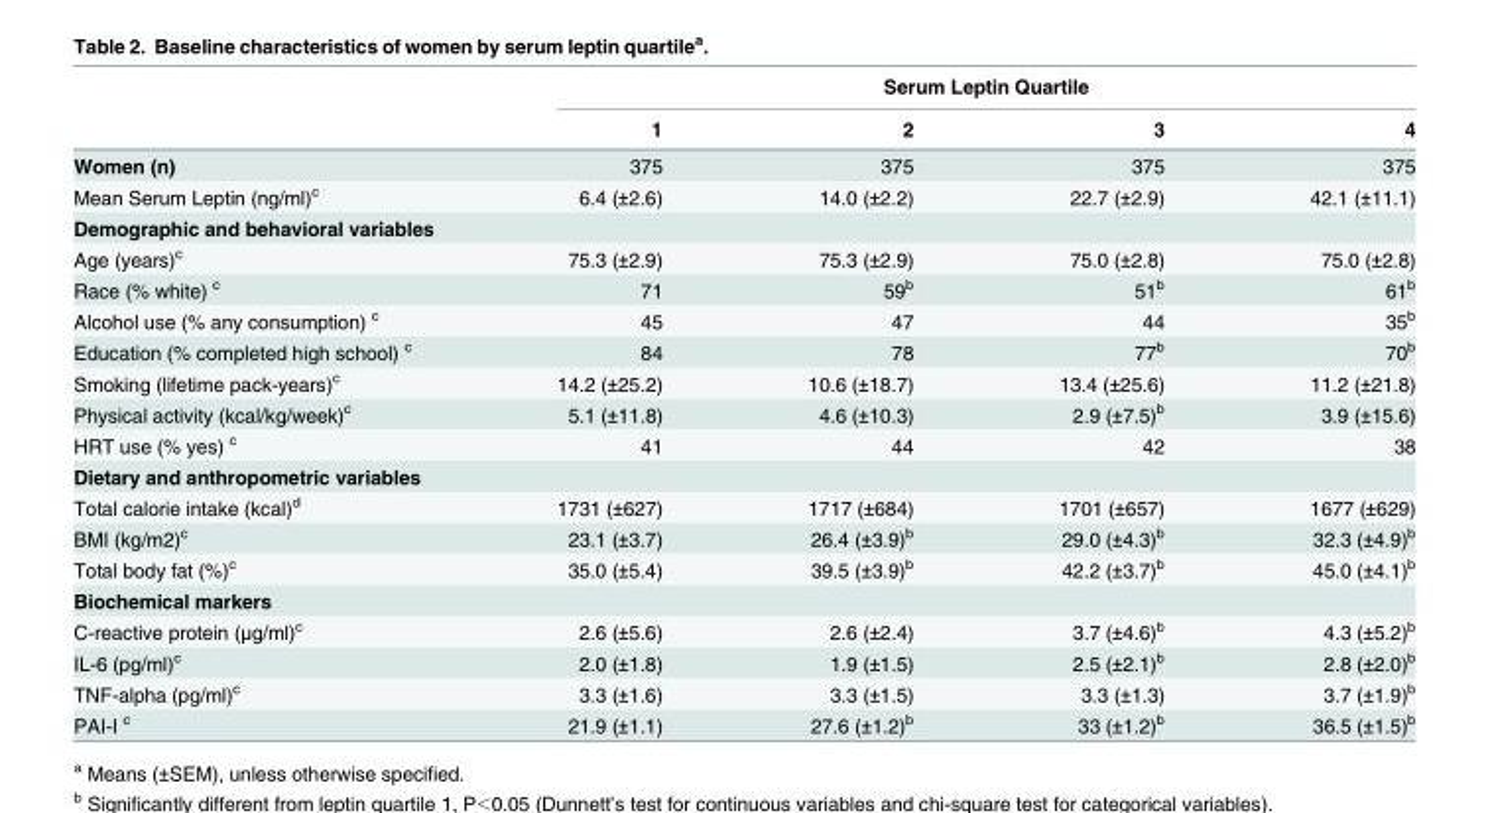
<table><thead><tr><td rowspan="2"></td><td colspan="4">Serum Leptin Quartile</td></tr><tr><td>1</td><td>2</td><td>3</td><td>4</td></tr></thead><tbody><tr><td>Women (n)</td><td>375</td><td>375</td><td>375</td><td>375</td></tr><tr><td>Mean Serum Leptin (ng/ml)<sup>c</sup></td><td>6.4 (±2.6)</td><td>14.0 (±2.2)</td><td>22.7 (±2.9)</td><td>42.1 (±11.1)</td></tr><tr><td colspan="5">Demographic and behavioral variables</td></tr><tr><td>Age (years)<sup>c</sup></td><td>75.3 (±2.9)</td><td>75.3 (±2.9)</td><td>75.0 (±2.8)</td><td>75.0 (±2.8)</td></tr><tr><td>Race (% white) <sup>c</sup></td><td>71</td><td>59<sup>b</sup></td><td>51<sup>b</sup></td><td>61<sup>b</sup></td></tr><tr><td>Alcohol use (% any consumption) <sup>c</sup></td><td>45</td><td>47</td><td>44</td><td>35<sup>b</sup></td></tr><tr><td>Education (% completed high school) <sup>c</sup></td><td>84</td><td>78</td><td>77<sup>b</sup></td><td>70<sup>b</sup></td></tr><tr><td>Smoking (lifetime pack-years)<sup>c</sup></td><td>14.2 (±25.2)</td><td>10.6 (±18.7)</td><td>13.4 (±25.6)</td><td>11.2 (±21.8)</td></tr><tr><td>Physical activity (kcal/kg/week)<sup>c</sup></td><td>5.1 (±11.8)</td><td>4.6 (±10.3)</td><td>2.9 (±7.5)<sup>b</sup></td><td>3.9 (±15.6)</td></tr><tr><td>HRT use (% yes) <sup>c</sup></td><td>41</td><td>44</td><td>42</td><td>38</td></tr><tr><td colspan="5">Dietary and anthropometric variables</td></tr><tr><td>Total calorie intake (kcal)<sup>d</sup></td><td>1731 (±627)</td><td>1717 (±684)</td><td>1701 (±657)</td><td>1677 (±629)</td></tr><tr><td>BMI (kg/m2)<sup>c</sup></td><td>23.1 (±3.7)</td><td>26.4 (±3.9)<sup>b</sup></td><td>29.0 (±4.3)<sup>b</sup></td><td>32.3 (±4.9)<sup>b</sup></td></tr><tr><td>Total body fat (%)<sup>c</sup></td><td>35.0 (±5.4)</td><td>39.5 (±3.9)<sup>b</sup></td><td>42.2 (±3.7)<sup>b</sup></td><td>45.0 (±4.1)<sup>b</sup></td></tr><tr><td colspan="5">Biochemical markers</td></tr><tr><td>C-reactive protein (μg/ml)<sup>c</sup></td><td>2.6 (±5.6)</td><td>2.6 (±2.4)</td><td>3.7 (±4.6)<sup>b</sup></td><td>4.3 (±5.2)<sup>b</sup></td></tr><tr><td>IL-6 (pg/ml)<sup>c</sup></td><td>2.0 (±1.8)</td><td>1.9 (±1.5)</td><td>2.5 (±2.1)<sup>b</sup></td><td>2.8 (±2.0)<sup>b</sup></td></tr><tr><td>TNF-alpha (pg/ml)<sup>c</sup></td><td>3.3 (±1.6)</td><td>3.3 (±1.5)</td><td>3.3 (±1.3)</td><td>3.7 (±1.9)<sup>b</sup></td></tr><tr><td>PAI-I <sup>c</sup></td><td>21.9 (±1.1)</td><td>27.6 (±1.2)<sup>b</sup></td><td>33 (±1.2)<sup>b</sup></td><td>36.5 (±1.5)<sup>b</sup></td></tr></tbody></table>